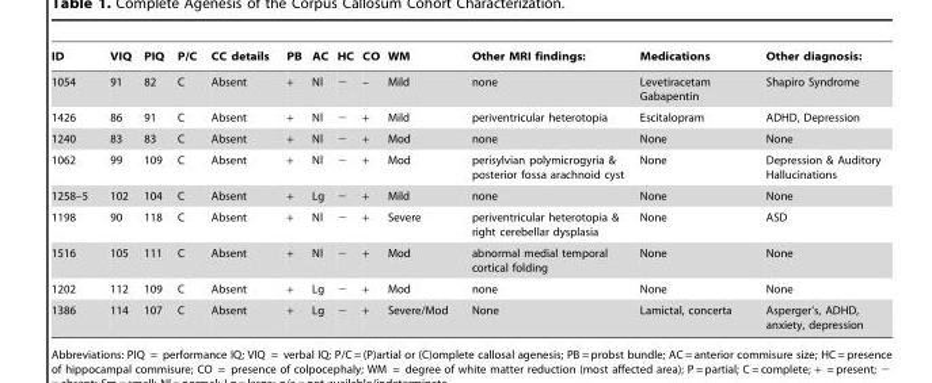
<table><thead><tr><td>ID</td><td>VIQ</td><td>PIQ</td><td>P/C</td><td>CC details</td><td>PB</td><td>AC</td><td>HC</td><td>CO</td><td>WM</td><td>Other MRI findings:</td><td>Medications</td><td>Other diagnosis:</td></tr></thead><tbody><tr><td>1054</td><td>91</td><td>82</td><td>C</td><td>Absent</td><td>+</td><td>Nl</td><td>−</td><td>–</td><td>Mild</td><td>none</td><td>Levetiracetam Gabapentin</td><td>Shapiro Syndrome</td></tr><tr><td>1426</td><td>86</td><td>91</td><td>C</td><td>Absent</td><td>+</td><td>Nl</td><td>−</td><td>+</td><td>Mild</td><td>periventricular heterotopia</td><td>Escitalopram</td><td>ADHD, Depression</td></tr><tr><td>1240</td><td>83</td><td>83</td><td>C</td><td>Absent</td><td>+</td><td>Nl</td><td>−</td><td>+</td><td>Mod</td><td>none</td><td>None</td><td>None</td></tr><tr><td>1062</td><td>99</td><td>109</td><td>C</td><td>Absent</td><td>+</td><td>Nl</td><td>−</td><td>+</td><td>Mod</td><td>perisylvian polymicrogyria &amp; posterior fossa arachnoid cyst</td><td>None</td><td>Depression &amp; Auditory Hallucinations</td></tr><tr><td>1258–5</td><td>102</td><td>104</td><td>C</td><td>Absent</td><td>+</td><td>Lg</td><td>−</td><td>+</td><td>Mild</td><td>none</td><td>None</td><td>None</td></tr><tr><td>1198</td><td>90</td><td>118</td><td>C</td><td>Absent</td><td>+</td><td>Nl</td><td>−</td><td>+</td><td>Severe</td><td>periventricular heterotopia &amp; right cerebellar dysplasia</td><td>None</td><td>ASD</td></tr><tr><td>1516</td><td>105</td><td>111</td><td>C</td><td>Absent</td><td>+</td><td>Nl</td><td>−</td><td>+</td><td>Mod</td><td>abnormal medial temporal cortical folding</td><td>None</td><td>None</td></tr><tr><td>1202</td><td>112</td><td>109</td><td>C</td><td>Absent</td><td>+</td><td>Lg</td><td>−</td><td>+</td><td>Mod</td><td>none</td><td>None</td><td>None</td></tr><tr><td>1386</td><td>114</td><td>107</td><td>C</td><td>Absent</td><td>+</td><td>Lg</td><td>−</td><td>+</td><td>Severe/Mod</td><td>None</td><td>Lamictal, concerta</td><td>Asperger’s, ADHD, anxiety, depression</td></tr></tbody></table>